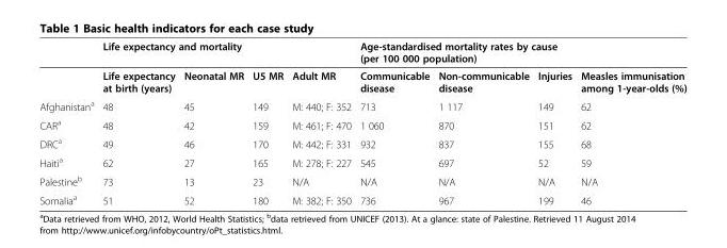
<table><thead><tr><td rowspan="2"></td><td colspan="4">Life expectancy and mortality</td><td colspan="3">Age-standardised mortality rates by cause (per 100 000 population)</td><td rowspan="2">Measles immunisation among 1-year-olds (%)</td></tr><tr><td>Life expectancy at birth (years)</td><td>Neonatal MR</td><td>U5 MR</td><td>Adult MR</td><td>Communicable disease</td><td>Non-communicable disease</td><td>Injuries</td></tr></thead><tbody><tr><td>Afghanistan<sup>a</sup></td><td>48</td><td>45</td><td>149</td><td>M: 440; F: 352</td><td>713</td><td>1 117</td><td>149</td><td>62</td></tr><tr><td>CAR<sup>a</sup></td><td>48</td><td>42</td><td>159</td><td>M: 461; F: 470</td><td>1 060</td><td>870</td><td>151</td><td>62</td></tr><tr><td>DRC<sup>a</sup></td><td>49</td><td>46</td><td>170</td><td>M: 442; F: 331</td><td>932</td><td>837</td><td>155</td><td>68</td></tr><tr><td>Haiti<sup>a</sup></td><td>62</td><td>27</td><td>165</td><td>M: 278; F: 227</td><td>545</td><td>697</td><td>52</td><td>59</td></tr><tr><td>Palestine<sup>b</sup></td><td>73</td><td>13</td><td>23</td><td>N/A</td><td>N/A</td><td>N/A</td><td>N/A</td><td>N/A</td></tr><tr><td>Somalia<sup>a</sup></td><td>51</td><td>52</td><td>180</td><td>M: 382; F: 350</td><td>736</td><td>967</td><td>199</td><td>46</td></tr></tbody></table>